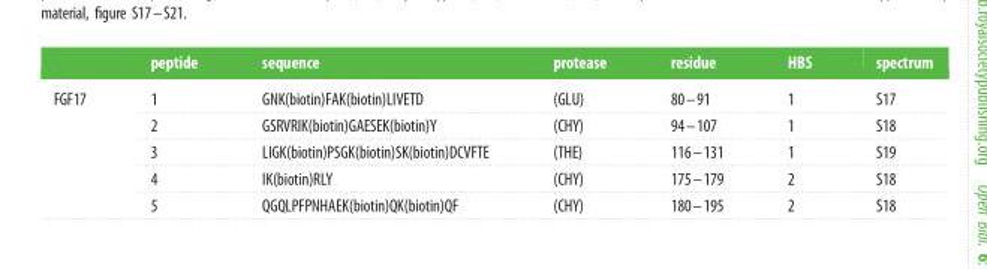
<table><thead><tr><td></td><td>peptide</td><td>sequence</td><td>protease</td><td>residue</td><td>HBS</td><td>spectrum</td></tr></thead><tbody><tr><td rowspan="5">FGF17</td><td>1</td><td>GNK(biotin)FAK(biotin)LIVETD</td><td>(GLU)</td><td>80–91</td><td>1</td><td>S17</td></tr><tr><td>2</td><td>GSRVRIK(biotin)GAESEK(biotin)Y</td><td>(CHY)</td><td>94–107</td><td>1</td><td>S18</td></tr><tr><td>3</td><td>LIGK(biotin)PSGK(biotin)SK(biotin)DCVFTE</td><td>(THE)</td><td>116–131</td><td>1</td><td>S19</td></tr><tr><td>4</td><td>IK(biotin)RLY</td><td>(CHY)</td><td>175–179</td><td>2</td><td>S18</td></tr><tr><td>5</td><td>QGQLPFPNHAEK(biotin)QK(biotin)QF</td><td>(CHY)</td><td>180–195</td><td>2</td><td>S18</td></tr></tbody></table>